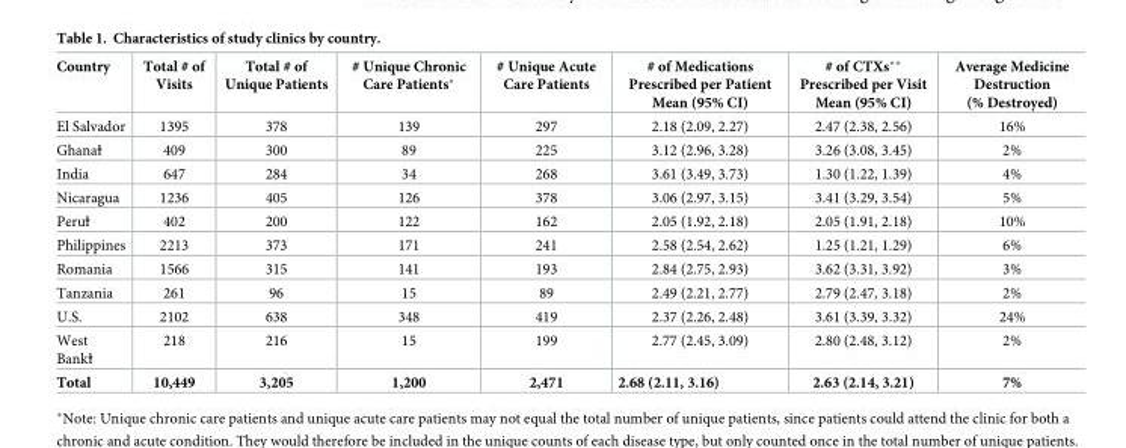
<table><thead><tr><td>Country</td><td>Total # of Visits</td><td>Total # of Unique Patients</td><td># Unique Chronic Care Patients*</td><td># Unique Acute Care Patients</td><td># of Medications Prescribed per Patient Mean (95% CI)</td><td># of CTXs** Prescribed per Visit Mean (95% CI)</td><td>Average Medicine Destruction (% Destroyed)</td></tr></thead><tbody><tr><td>El Salvador</td><td>1395</td><td>378</td><td>139</td><td>297</td><td>2.18 (2.09, 2.27)</td><td>2.47 (2.38, 2.56)</td><td>16%</td></tr><tr><td>Ghanaⱡ</td><td>409</td><td>300</td><td>89</td><td>225</td><td>3.12 (2.96, 3.28)</td><td>3.26 (3.08, 3.45)</td><td>2%</td></tr><tr><td>India</td><td>647</td><td>284</td><td>34</td><td>268</td><td>3.61 (3.49, 3.73)</td><td>1.30 (1.22, 1.39)</td><td>4%</td></tr><tr><td>Nicaragua</td><td>1236</td><td>405</td><td>126</td><td>378</td><td>3.06 (2.97, 3.15)</td><td>3.41 (3.29, 3.54)</td><td>5%</td></tr><tr><td>Peruⱡ</td><td>402</td><td>200</td><td>122</td><td>162</td><td>2.05 (1.92, 2.18)</td><td>2.05 (1.91, 2.18)</td><td>10%</td></tr><tr><td>Philippines</td><td>2213</td><td>373</td><td>171</td><td>241</td><td>2.58 (2.54, 2.62)</td><td>1.25 (1.21, 1.29)</td><td>6%</td></tr><tr><td>Romania</td><td>1566</td><td>315</td><td>141</td><td>193</td><td>2.84 (2.75, 2.93)</td><td>3.62 (3.31, 3.92)</td><td>3%</td></tr><tr><td>Tanzania</td><td>261</td><td>96</td><td>15</td><td>89</td><td>2.49 (2.21, 2.77)</td><td>2.79 (2.47, 3.18)</td><td>2%</td></tr><tr><td>U.S.</td><td>2102</td><td>638</td><td>348</td><td>419</td><td>2.37 (2.26, 2.48)</td><td>3.61 (3.39, 3.32)</td><td>24%</td></tr><tr><td>West Bankⱡ</td><td>218</td><td>216</td><td>15</td><td>199</td><td>2.77 (2.45, 3.09)</td><td>2.80 (2.48, 3.12)</td><td>2%</td></tr><tr><td>Total</td><td>10,449</td><td>3,205</td><td>1,200</td><td>2,471</td><td>2.68 (2.11, 3.16)</td><td>2.63 (2.14, 3.21)</td><td>7%</td></tr></tbody></table>